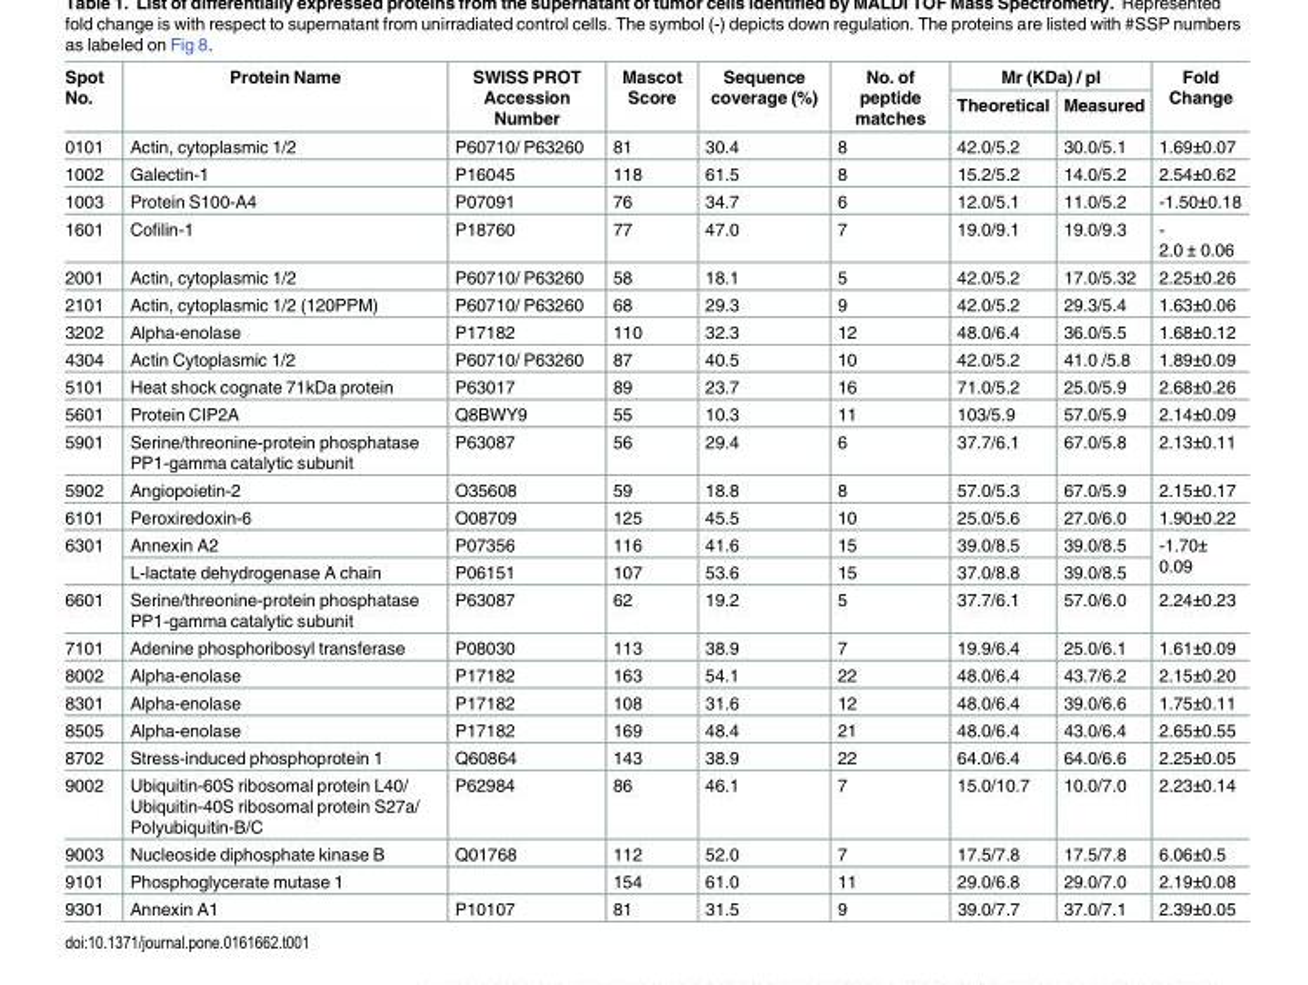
<table><thead><tr><td rowspan="2">Spot No.</td><td rowspan="2">Protein Name</td><td rowspan="2">SWISS PROT Accession Number</td><td rowspan="2">Mascot Score</td><td rowspan="2">Sequence coverage (%)</td><td rowspan="2">No. of peptide matches</td><td colspan="2">Mr (KDa) / pI</td><td rowspan="2">Fold Change</td></tr><tr><td>Theoretical</td><td>Measured</td></tr></thead><tbody><tr><td>0101</td><td>Actin, cytoplasmic 1/2</td><td>P60710/ P63260</td><td>81</td><td>30.4</td><td>8</td><td>42.0/5.2</td><td>30.0/5.1</td><td>1.69±0.07</td></tr><tr><td>1002</td><td>Galectin-1</td><td>P16045</td><td>118</td><td>61.5</td><td>8</td><td>15.2/5.2</td><td>14.0/5.2</td><td>2.54±0.62</td></tr><tr><td>1003</td><td>Protein S100-A4</td><td>P07091</td><td>76</td><td>34.7</td><td>6</td><td>12.0/5.1</td><td>11.0/5.2</td><td>-1.50±0.18</td></tr><tr><td>1601</td><td>Cofilin-1</td><td>P18760</td><td>77</td><td>47.0</td><td>7</td><td>19.0/9.1</td><td>19.0/9.3</td><td>- 2.0 ± 0.06</td></tr><tr><td>2001</td><td>Actin, cytoplasmic 1/2</td><td>P60710/ P63260</td><td>58</td><td>18.1</td><td>5</td><td>42.0/5.2</td><td>17.0/5.32</td><td>2.25±0.26</td></tr><tr><td>2101</td><td>Actin, cytoplasmic 1/2 (120PPM)</td><td>P60710/ P63260</td><td>68</td><td>29.3</td><td>9</td><td>42.0/5.2</td><td>29.3/5.4</td><td>1.63±0.06</td></tr><tr><td>3202</td><td>Alpha-enolase</td><td>P17182</td><td>110</td><td>32.3</td><td>12</td><td>48.0/6.4</td><td>36.0/5.5</td><td>1.68±0.12</td></tr><tr><td>4304</td><td>Actin Cytoplasmic 1/2</td><td>P60710/ P63260</td><td>87</td><td>40.5</td><td>10</td><td>42.0/5.2</td><td>41.0 /5.8</td><td>1.89±0.09</td></tr><tr><td>5101</td><td>Heat shock cognate 71kDa protein</td><td>P63017</td><td>89</td><td>23.7</td><td>16</td><td>71.0/5.2</td><td>25.0/5.9</td><td>2.68±0.26</td></tr><tr><td>5601</td><td>Protein CIP2A</td><td>Q8BWY9</td><td>55</td><td>10.3</td><td>11</td><td>103/5.9</td><td>57.0/5.9</td><td>2.14±0.09</td></tr><tr><td>5901</td><td>Serine/threonine-protein phosphatase PP1-gamma catalytic subunit</td><td>P63087</td><td>56</td><td>29.4</td><td>6</td><td>37.7/6.1</td><td>67.0/5.8</td><td>2.13±0.11</td></tr><tr><td>5902</td><td>Angiopoietin-2</td><td>O35608</td><td>59</td><td>18.8</td><td>8</td><td>57.0/5.3</td><td>67.0/5.9</td><td>2.15±0.17</td></tr><tr><td>6101</td><td>Peroxiredoxin-6</td><td>O08709</td><td>125</td><td>45.5</td><td>10</td><td>25.0/5.6</td><td>27.0/6.0</td><td>1.90±0.22</td></tr><tr><td rowspan="2">6301</td><td>Annexin A2</td><td>P07356</td><td>116</td><td>41.6</td><td>15</td><td>39.0/8.5</td><td>39.0/8.5</td><td rowspan="2">-1.70± 0.09</td></tr><tr><td>L-lactate dehydrogenase A chain</td><td>P06151</td><td>107</td><td>53.6</td><td>15</td><td>37.0/8.8</td><td>39.0/8.5</td></tr><tr><td>6601</td><td>Serine/threonine-protein phosphatase PP1-gamma catalytic subunit</td><td>P63087</td><td>62</td><td>19.2</td><td>5</td><td>37.7/6.1</td><td>57.0/6.0</td><td>2.24±0.23</td></tr><tr><td>7101</td><td>Adenine phosphoribosyl transferase</td><td>P08030</td><td>113</td><td>38.9</td><td>7</td><td>19.9/6.4</td><td>25.0/6.1</td><td>1.61±0.09</td></tr><tr><td>8002</td><td>Alpha-enolase</td><td>P17182</td><td>163</td><td>54.1</td><td>22</td><td>48.0/6.4</td><td>43.7/6.2</td><td>2.15±0.20</td></tr><tr><td>8301</td><td>Alpha-enolase</td><td>P17182</td><td>108</td><td>31.6</td><td>12</td><td>48.0/6.4</td><td>39.0/6.6</td><td>1.75±0.11</td></tr><tr><td>8505</td><td>Alpha-enolase</td><td>P17182</td><td>169</td><td>48.4</td><td>21</td><td>48.0/6.4</td><td>43.0/6.4</td><td>2.65±0.55</td></tr><tr><td>8702</td><td>Stress-induced phosphoprotein 1</td><td>Q60864</td><td>143</td><td>38.9</td><td>22</td><td>64.0/6.4</td><td>64.0/6.6</td><td>2.25±0.05</td></tr><tr><td>9002</td><td>Ubiquitin-60S ribosomal protein L40/ Ubiquitin-40S ribosomal protein S27a/ Polyubiquitin-B/C</td><td>P62984</td><td>86</td><td>46.1</td><td>7</td><td>15.0/10.7</td><td>10.0/7.0</td><td>2.23±0.14</td></tr><tr><td>9003</td><td>Nucleoside diphosphate kinase B</td><td>Q01768</td><td>112</td><td>52.0</td><td>7</td><td>17.5/7.8</td><td>17.5/7.8</td><td>6.06±0.5</td></tr><tr><td>9101</td><td>Phosphoglycerate mutase 1</td><td></td><td>154</td><td>61.0</td><td>11</td><td>29.0/6.8</td><td>29.0/7.0</td><td>2.19±0.08</td></tr><tr><td>9301</td><td>Annexin A1</td><td>P10107</td><td>81</td><td>31.5</td><td>9</td><td>39.0/7.7</td><td>37.0/7.1</td><td>2.39±0.05</td></tr></tbody></table>